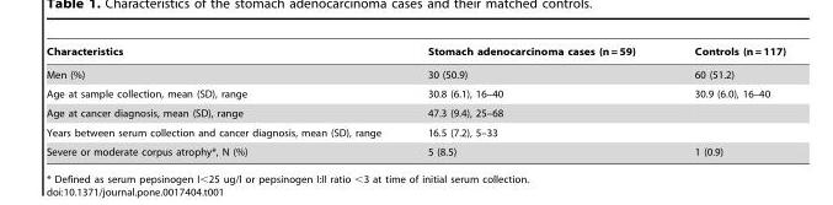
<table><thead><tr><td>Characteristics</td><td>Stomach adenocarcinoma cases (n = 59)</td><td>Controls (n = 117)</td></tr></thead><tbody><tr><td>Men (%)</td><td>30 (50.9)</td><td>60 (51.2)</td></tr><tr><td>Age at sample collection, mean (SD), range</td><td>30.8 (6.1), 16–40</td><td>30.9 (6.0), 16–40</td></tr><tr><td>Age at cancer diagnosis, mean (SD), range</td><td>47.3 (9.4), 25–68</td><td></td></tr><tr><td>Years between serum collection and cancer diagnosis, mean (SD), range</td><td>16.5 (7.2), 5–33</td><td></td></tr><tr><td>Severe or moderate corpus atrophy*, N (%)</td><td>5 (8.5)</td><td>1 (0.9)</td></tr></tbody></table>